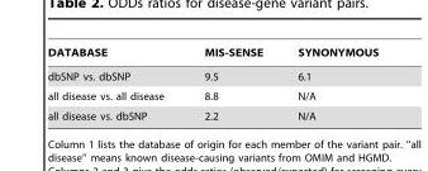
<table><thead><tr><td>DATABASE</td><td>MIS-SENSE</td><td>SYNONYMOUS</td></tr></thead><tbody><tr><td>dbSNP vs. dbSNP</td><td>9.5</td><td>6.1</td></tr><tr><td>all disease vs. all disease</td><td>8.8</td><td>N/A</td></tr><tr><td>all disease vs. dbSNP</td><td>2.2</td><td>N/A</td></tr></tbody></table>